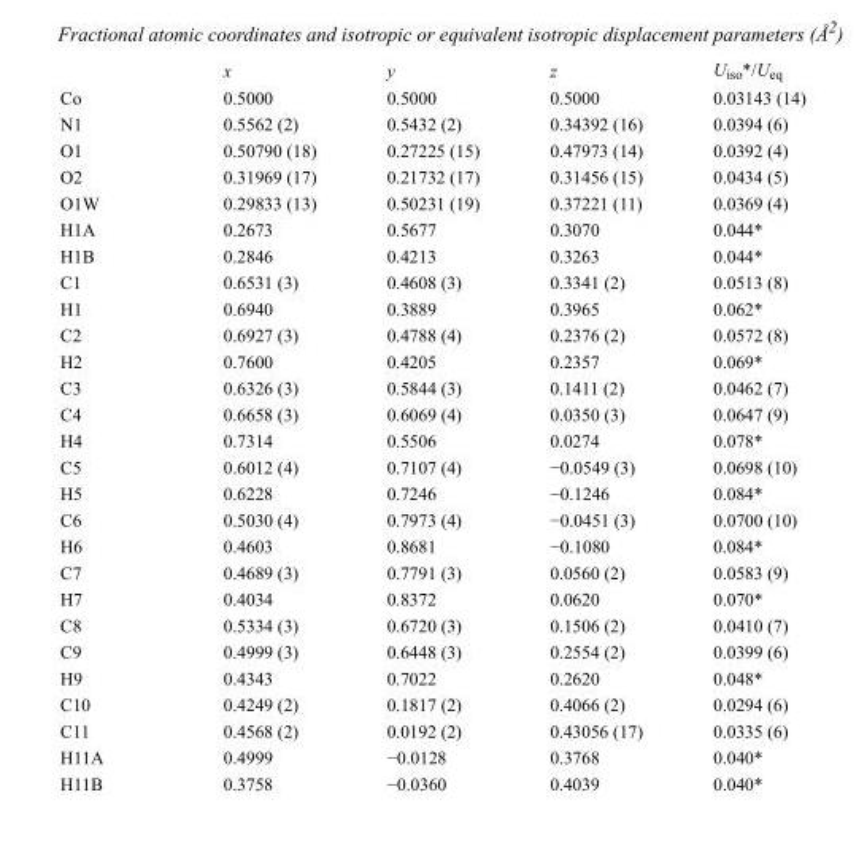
<table><thead><tr><td></td><td>x</td><td>y</td><td>z</td><td>U<sub>iso</sub>*/U<sub>eq</sub></td></tr></thead><tbody><tr><td>Co</td><td>0.5000</td><td>0.5000</td><td>0.5000</td><td>0.03143 (14)</td></tr><tr><td>N1</td><td>0.5562 (2)</td><td>0.5432 (2)</td><td>0.34392 (16)</td><td>0.0394 (6)</td></tr><tr><td>O1</td><td>0.50790 (18)</td><td>0.27225 (15)</td><td>0.47973 (14)</td><td>0.0392 (4)</td></tr><tr><td>O2</td><td>0.31969 (17)</td><td>0.21732 (17)</td><td>0.31456 (15)</td><td>0.0434 (5)</td></tr><tr><td>O1W</td><td>0.29833 (13)</td><td>0.50231 (19)</td><td>0.37221 (11)</td><td>0.0369 (4)</td></tr><tr><td>H1A</td><td>0.2673</td><td>0.5677</td><td>0.3070</td><td>0.044*</td></tr><tr><td>H1B</td><td>0.2846</td><td>0.4213</td><td>0.3263</td><td>0.044*</td></tr><tr><td>C1</td><td>0.6531 (3)</td><td>0.4608 (3)</td><td>0.3341 (2)</td><td>0.0513 (8)</td></tr><tr><td>H1</td><td>0.6940</td><td>0.3889</td><td>0.3965</td><td>0.062*</td></tr><tr><td>C2</td><td>0.6927 (3)</td><td>0.4788 (4)</td><td>0.2376 (2)</td><td>0.0572 (8)</td></tr><tr><td>H2</td><td>0.7600</td><td>0.4205</td><td>0.2357</td><td>0.069*</td></tr><tr><td>C3</td><td>0.6326 (3)</td><td>0.5844 (3)</td><td>0.1411 (2)</td><td>0.0462 (7)</td></tr><tr><td>C4</td><td>0.6658 (3)</td><td>0.6069 (4)</td><td>0.0350 (3)</td><td>0.0647 (9)</td></tr><tr><td>H4</td><td>0.7314</td><td>0.5506</td><td>0.0274</td><td>0.078*</td></tr><tr><td>C5</td><td>0.6012 (4)</td><td>0.7107 (4)</td><td>−0.0549 (3)</td><td>0.0698 (10)</td></tr><tr><td>H5</td><td>0.6228</td><td>0.7246</td><td>−0.1246</td><td>0.084*</td></tr><tr><td>C6</td><td>0.5030 (4)</td><td>0.7973 (4)</td><td>−0.0451 (3)</td><td>0.0700 (10)</td></tr><tr><td>H6</td><td>0.4603</td><td>0.8681</td><td>−0.1080</td><td>0.084*</td></tr><tr><td>C7</td><td>0.4689 (3)</td><td>0.7791 (3)</td><td>0.0560 (2)</td><td>0.0583 (9)</td></tr><tr><td>H7</td><td>0.4034</td><td>0.8372</td><td>0.0620</td><td>0.070*</td></tr><tr><td>C8</td><td>0.5334 (3)</td><td>0.6720 (3)</td><td>0.1506 (2)</td><td>0.0410 (7)</td></tr><tr><td>C9</td><td>0.4999 (3)</td><td>0.6448 (3)</td><td>0.2554 (2)</td><td>0.0399 (6)</td></tr><tr><td>H9</td><td>0.4343</td><td>0.7022</td><td>0.2620</td><td>0.048*</td></tr><tr><td>C10</td><td>0.4249 (2)</td><td>0.1817 (2)</td><td>0.4066 (2)</td><td>0.0294 (6)</td></tr><tr><td>C11</td><td>0.4568 (2)</td><td>0.0192 (2)</td><td>0.43056 (17)</td><td>0.0335 (6)</td></tr><tr><td>H11A</td><td>0.4999</td><td>−0.0128</td><td>0.3768</td><td>0.040*</td></tr><tr><td>H11B</td><td>0.3758</td><td>−0.0360</td><td>0.4039</td><td>0.040*</td></tr></tbody></table>